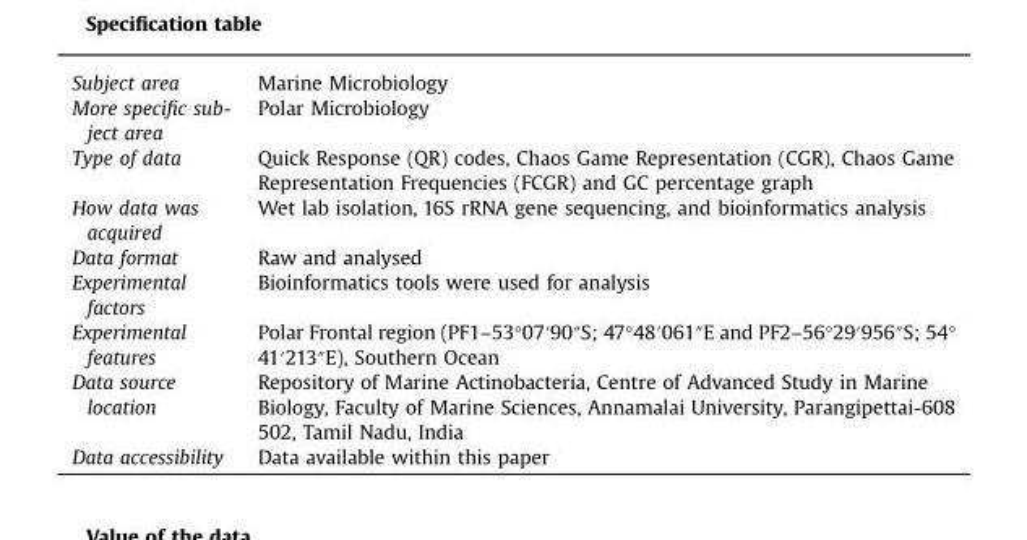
<table><tbody><tr><td>Subject area</td><td>Marine Microbiology</td></tr><tr><td>More specific sub- ject area</td><td>Polar Microbiology</td></tr><tr><td>Type of data</td><td>Quick Response (QR) codes, Chaos Game Representation (CGR), Chaos Game Representation Frequencies (FCGR) and GC percentage graph</td></tr><tr><td>How data was acquired</td><td>Wet lab isolation, 16S rRNA gene sequencing, and bioinformatics analysis</td></tr><tr><td>Data format</td><td>Raw and analysed</td></tr><tr><td>Experimental factors</td><td>Bioinformatics tools were used for analysis</td></tr><tr><td>Experimental features</td><td>Polar Frontal region (PF1–53°07′90″S; 47°48′061″E and PF2–56°29′956″S; 54° 41′213″E), Southern Ocean</td></tr><tr><td>Data source location</td><td>Repository of Marine Actinobacteria, Centre of Advanced Study in Marine Biology, Faculty of Marine Sciences, Annamalai University, Parangipettai-608 502, Tamil Nadu, India</td></tr><tr><td>Data accessibility</td><td>Data available within this paper</td></tr></tbody></table>